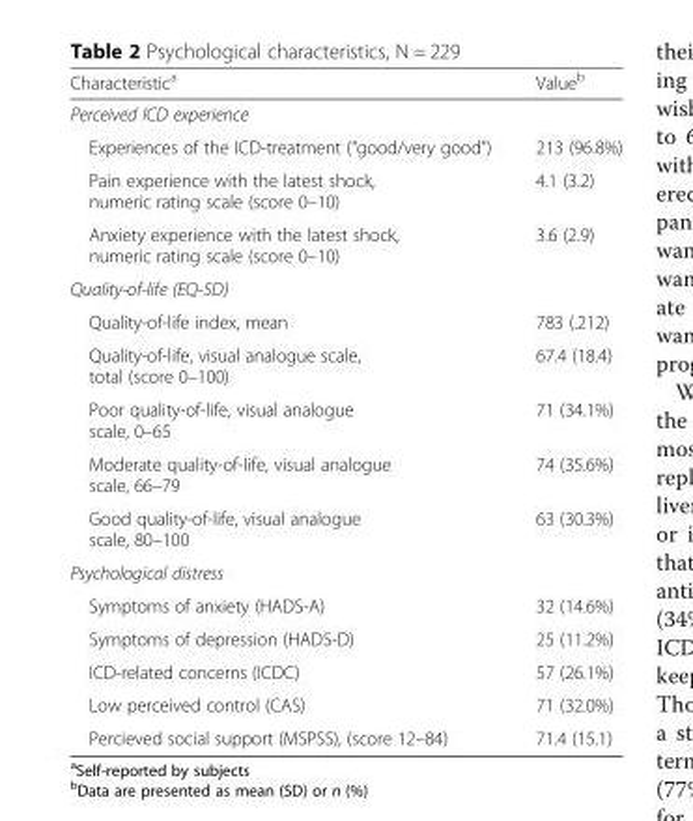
<table><thead><tr><td>Characteristic<sup>a</sup></td><td>Value<sup>b</sup></td></tr></thead><tbody><tr><td colspan="2">Perceived ICD experience</td></tr><tr><td>Experiences of the ICD-treatment (“good/very good”)</td><td>213 (96.8%)</td></tr><tr><td>Pain experience with the latest shock, numeric rating scale (score 0–10)</td><td>4.1 (3.2)</td></tr><tr><td>Anxiety experience with the latest shock, numeric rating scale (score 0–10)</td><td>3.6 (2.9)</td></tr><tr><td colspan="2">Quality-of-life (EQ-5D)</td></tr><tr><td>Quality-of-life index, mean</td><td>783 (.212)</td></tr><tr><td>Quality-of-life, visual analogue scale, total (score 0–100)</td><td>67.4 (18.4)</td></tr><tr><td>Poor quality-of-life, visual analogue scale, 0–65</td><td>71 (34.1%)</td></tr><tr><td>Moderate quality-of-life, visual analogue scale, 66–79</td><td>74 (35.6%)</td></tr><tr><td>Good quality-of-life, visual analogue scale, 80–100</td><td>63 (30.3%)</td></tr><tr><td colspan="2">Psychological distress</td></tr><tr><td>Symptoms of anxiety (HADS-A)</td><td>32 (14.6%)</td></tr><tr><td>Symptoms of depression (HADS-D)</td><td>25 (11.2%)</td></tr><tr><td>ICD-related concerns (ICDC)</td><td>57 (26.1%)</td></tr><tr><td>Low perceived control (CAS)</td><td>71 (32.0%)</td></tr><tr><td>Percieved social support (MSPSS), (score 12–84)</td><td>71.4 (15.1)</td></tr></tbody></table>